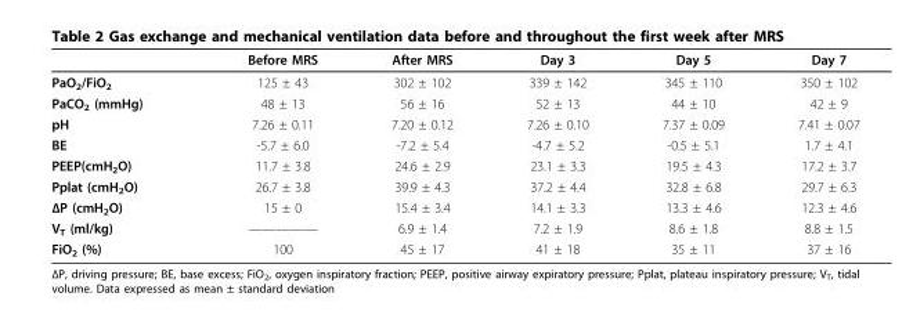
<table><thead><tr><td></td><td>Before MRS</td><td>After MRS</td><td>Day 3</td><td>Day 5</td><td>Day 7</td></tr></thead><tbody><tr><td>PaO<sub>2</sub>/FiO<sub>2</sub></td><td>125 ± 43</td><td>302 ± 102</td><td>339 ± 142</td><td>345 ± 110</td><td>350 ± 102</td></tr><tr><td>PaCO<sub>2</sub> (mmHg)</td><td>48 ± 13</td><td>56 ± 16</td><td>52 ± 13</td><td>44 ± 10</td><td>42 ± 9</td></tr><tr><td>pH</td><td>7.26 ± 0.11</td><td>7.20 ± 0.12</td><td>7.26 ± 0.10</td><td>7.37 ± 0.09</td><td>7.41 ± 0.07</td></tr><tr><td>BE</td><td>-5.7 ± 6.0</td><td>-7.2 ± 5.4</td><td>-4.7 ± 5.2</td><td>-0.5 ± 5.1</td><td>1.7 ± 4.1</td></tr><tr><td>PEEP(cmH<sub>2</sub>O)</td><td>11.7 ± 3.8</td><td>24.6 ± 2.9</td><td>23.1 ± 3.3</td><td>19.5 ± 4.3</td><td>17.2 ± 3.7</td></tr><tr><td>Pplat (cmH<sub>2</sub>O)</td><td>26.7 ± 3.8</td><td>39.9 ± 4.3</td><td>37.2 ± 4.4</td><td>32.8 ± 6.8</td><td>29.7 ± 6.3</td></tr><tr><td>ΔP (cmH<sub>2</sub>O)</td><td>15 ± 0</td><td>15.4 ± 3.4</td><td>14.1 ± 3.3</td><td>13.3 ± 4.6</td><td>12.3 ± 4.6</td></tr><tr><td>V<sub>T</sub> (ml/kg)</td><td>—————</td><td>6.9 ± 1.4</td><td>7.2 ± 1.9</td><td>8.6 ± 1.8</td><td>8.8 ± 1.5</td></tr><tr><td>FiO<sub>2</sub> (%)</td><td>100</td><td>45 ± 17</td><td>41 ± 18</td><td>35 ± 11</td><td>37 ± 16</td></tr></tbody></table>